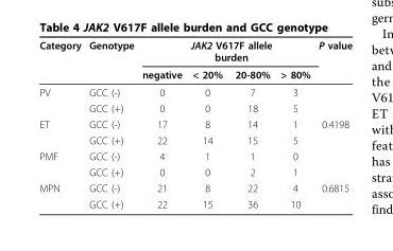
<table><thead><tr><td rowspan="2">Category</td><td rowspan="2">Genotype</td><td rowspan="2">negative</td><td colspan="2">JAK2 V617F allele burden</td><td rowspan="2">&gt; 80%</td><td rowspan="2">P value</td></tr><tr><td>&lt; 20%</td><td>20-80%</td></tr></thead><tbody><tr><td rowspan="2">PV</td><td>GCC (-)</td><td>0</td><td>0</td><td>7</td><td>3</td><td></td></tr><tr><td>GCC (+)</td><td>0</td><td>0</td><td>18</td><td>5</td><td></td></tr><tr><td rowspan="2">ET</td><td>GCC (-)</td><td>17</td><td>8</td><td>14</td><td>1</td><td>0.4198</td></tr><tr><td>GCC (+)</td><td>22</td><td>14</td><td>15</td><td>5</td><td></td></tr><tr><td rowspan="2">PMF</td><td>GCC (-)</td><td>4</td><td>1</td><td>1</td><td>0</td><td></td></tr><tr><td>GCC (+)</td><td>0</td><td>0</td><td>2</td><td>1</td><td></td></tr><tr><td rowspan="2">MPN</td><td>GCC (-)</td><td>21</td><td>8</td><td>22</td><td>4</td><td>0.6815</td></tr><tr><td>GCC (+)</td><td>22</td><td>15</td><td>36</td><td>10</td><td></td></tr></tbody></table>